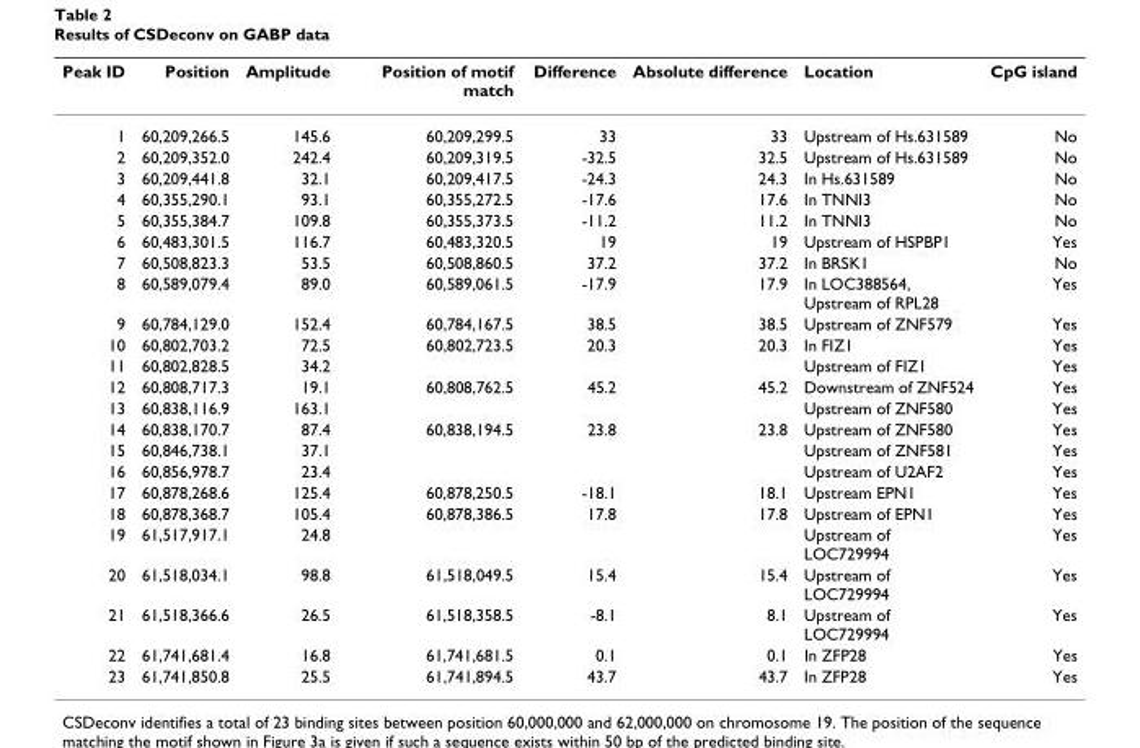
<table><thead><tr><td>Peak ID</td><td>Position</td><td>Amplitude</td><td>Position of motif match</td><td>Difference</td><td>Absolute difference</td><td>Location</td><td>CpG island</td></tr></thead><tbody><tr><td>1</td><td>60,209,266.5</td><td>145.6</td><td>60,209,299.5</td><td>33</td><td>33</td><td>Upstream of Hs.631589</td><td>No</td></tr><tr><td>2</td><td>60,209,352.0</td><td>242.4</td><td>60,209,319.5</td><td>-32.5</td><td>32.5</td><td>Upstream of Hs.631589</td><td>No</td></tr><tr><td>3</td><td>60,209,441.8</td><td>32.1</td><td>60,209,417.5</td><td>-24.3</td><td>24.3</td><td>In Hs.631589</td><td>No</td></tr><tr><td>4</td><td>60,355,290.1</td><td>93.1</td><td>60,355,272.5</td><td>-17.6</td><td>17.6</td><td>In TNNI3</td><td>No</td></tr><tr><td>5</td><td>60,355,384.7</td><td>109.8</td><td>60,355,373.5</td><td>-11.2</td><td>11.2</td><td>In TNNI3</td><td>No</td></tr><tr><td>6</td><td>60,483,301.5</td><td>116.7</td><td>60,483,320.5</td><td>19</td><td>19</td><td>Upstream of HSPBP1</td><td>Yes</td></tr><tr><td>7</td><td>60,508,823.3</td><td>53.5</td><td>60,508,860.5</td><td>37.2</td><td>37.2</td><td>In BRSK1</td><td>No</td></tr><tr><td>8</td><td>60,589,079.4</td><td>89.0</td><td>60,589,061.5</td><td>-17.9</td><td>17.9</td><td>In LOC388564, Upstream of RPL28</td><td>Yes</td></tr><tr><td>9</td><td>60,784,129.0</td><td>152.4</td><td>60,784,167.5</td><td>38.5</td><td>38.5</td><td>Upstream of ZNF579</td><td>Yes</td></tr><tr><td>10</td><td>60,802,703.2</td><td>72.5</td><td>60,802,723.5</td><td>20.3</td><td>20.3</td><td>In FIZ1</td><td>Yes</td></tr><tr><td>11</td><td>60,802,828.5</td><td>34.2</td><td></td><td></td><td></td><td>Upstream of FIZ1</td><td>Yes</td></tr><tr><td>12</td><td>60,808,717.3</td><td>19.1</td><td>60,808,762.5</td><td>45.2</td><td>45.2</td><td>Downstream of ZNF524</td><td>Yes</td></tr><tr><td>13</td><td>60,838,116.9</td><td>163.1</td><td></td><td></td><td></td><td>Upstream of ZNF580</td><td>Yes</td></tr><tr><td>14</td><td>60,838,170.7</td><td>87.4</td><td>60,838,194.5</td><td>23.8</td><td>23.8</td><td>Upstream of ZNF580</td><td>Yes</td></tr><tr><td>15</td><td>60,846,738.1</td><td>37.1</td><td></td><td></td><td></td><td>Upstream of ZNF581</td><td>Yes</td></tr><tr><td>16</td><td>60,856,978.7</td><td>23.4</td><td></td><td></td><td></td><td>Upstream of U2AF2</td><td>Yes</td></tr><tr><td>17</td><td>60,878,268.6</td><td>125.4</td><td>60,878,250.5</td><td>-18.1</td><td>18.1</td><td>Upstream EPN1</td><td>Yes</td></tr><tr><td>18</td><td>60,878,368.7</td><td>105.4</td><td>60,878,386.5</td><td>17.8</td><td>17.8</td><td>Upstream of EPN1</td><td>Yes</td></tr><tr><td>19</td><td>61,517,917.1</td><td>24.8</td><td></td><td></td><td></td><td>Upstream of LOC729994</td><td>Yes</td></tr><tr><td>20</td><td>61,518,034.1</td><td>98.8</td><td>61,518,049.5</td><td>15.4</td><td>15.4</td><td>Upstream of LOC729994</td><td>Yes</td></tr><tr><td>21</td><td>61,518,366.6</td><td>26.5</td><td>61,518,358.5</td><td>-8.1</td><td>8.1</td><td>Upstream of LOC729994</td><td>Yes</td></tr><tr><td>22</td><td>61,741,681.4</td><td>16.8</td><td>61,741,681.5</td><td>0.1</td><td>0.1</td><td>In ZFP28</td><td>Yes</td></tr><tr><td>23</td><td>61,741,850.8</td><td>25.5</td><td>61,741,894.5</td><td>43.7</td><td>43.7</td><td>In ZFP28</td><td>Yes</td></tr></tbody></table>